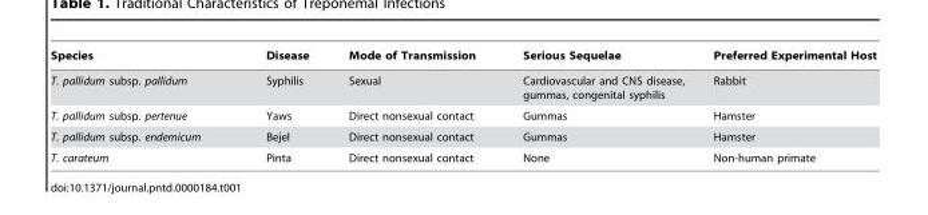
<table><thead><tr><td>Species</td><td>Disease</td><td>Mode of Transmission</td><td>Serious Sequelae</td><td>Preferred Experimental Host</td></tr></thead><tbody><tr><td>T. pallidum subsp. pallidum</td><td>Syphilis</td><td>Sexual</td><td>Cardiovascular and CNS disease, gummas, congenital syphilis</td><td>Rabbit</td></tr><tr><td>T. pallidum subsp. pertenue</td><td>Yaws</td><td>Direct nonsexual contact</td><td>Gummas</td><td>Hamster</td></tr><tr><td>T. pallidum subsp. endemicum</td><td>Bejel</td><td>Direct nonsexual contact</td><td>Gummas</td><td>Hamster</td></tr><tr><td>T. carateum</td><td>Pinta</td><td>Direct nonsexual contact</td><td>None</td><td>Non-human primate</td></tr></tbody></table>